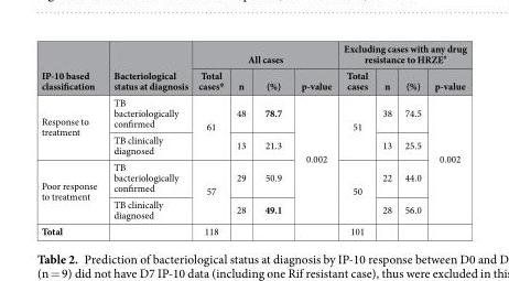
<table><thead><tr><td rowspan="2">IP-10 based classification</td><td rowspan="2">Bacteriological status at diagnosis</td><td colspan="4">All cases</td><td colspan="4">Excluding cases with any drug resistance to HRZE<sup>#</sup></td></tr><tr><td>Total cases*</td><td>n</td><td>(%)</td><td>p-value</td><td>Total cases</td><td>n</td><td>(%)</td><td>p-value</td></tr></thead><tbody><tr><td rowspan="2">Response to treatment</td><td>TB bacteriologically confirmed</td><td rowspan="2">61</td><td>48</td><td>78.7</td><td rowspan="4">0.002</td><td rowspan="2">51</td><td>38</td><td>74.5</td><td rowspan="4">0.002</td></tr><tr><td>TB clinically diagnosed</td><td>13</td><td>21.3</td><td>13</td><td>25.5</td></tr><tr><td rowspan="2">Poor response to treatment</td><td>TB bacteriologically confirmed</td><td rowspan="2">57</td><td>29</td><td>50.9</td><td rowspan="2">50</td><td>22</td><td>44.0</td></tr><tr><td>TB clinically diagnosed</td><td>28</td><td>49.1</td><td>28</td><td>56.0</td></tr><tr><td>Total</td><td></td><td>118</td><td></td><td></td><td></td><td>101</td><td></td><td></td><td></td></tr></tbody></table>